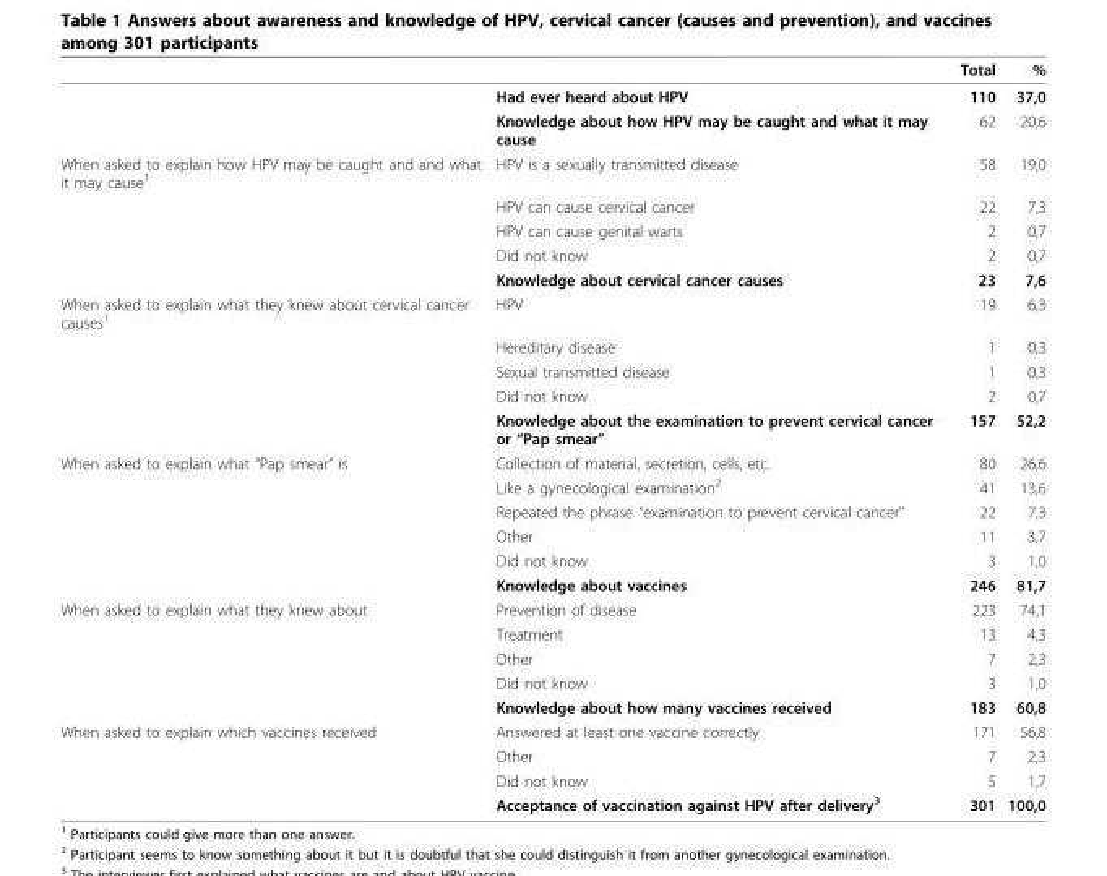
<table><thead><tr><td></td><td></td><td>Total</td><td>%</td></tr></thead><tbody><tr><td></td><td>Had ever heard about HPV</td><td>110</td><td>37,0</td></tr><tr><td></td><td>Knowledge about how HPV may be caught and what it may cause</td><td>62</td><td>20,6</td></tr><tr><td rowspan="5">When asked to explain how HPV may be caught and and what it may cause<sup>1</sup></td><td>HPV is a sexually transmitted disease</td><td>58</td><td>19,0</td></tr><tr><td>HPV can cause cervical cancer</td><td>22</td><td>7,3</td></tr><tr><td>HPV can cause genital warts</td><td>2</td><td>0,7</td></tr><tr><td>Did not know</td><td>2</td><td>0,7</td></tr><tr><td>Knowledge about cervical cancer causes</td><td>23</td><td>7,6</td></tr><tr><td rowspan="5">When asked to explain what they knew about cervical cancer causes<sup>1</sup></td><td>HPV</td><td>19</td><td>6,3</td></tr><tr><td>Hereditary disease</td><td>1</td><td>0,3</td></tr><tr><td>Sexual transmitted disease</td><td>1</td><td>0,3</td></tr><tr><td>Did not know</td><td>2</td><td>0,7</td></tr><tr><td>Knowledge about the examination to prevent cervical cancer or “Pap smear”</td><td>157</td><td>52,2</td></tr><tr><td rowspan="6">When asked to explain what “Pap smear” is</td><td>Collection of material, secretion, cells, etc.</td><td>80</td><td>26,6</td></tr><tr><td>Like a gynecological examination<sup>2</sup></td><td>41</td><td>13,6</td></tr><tr><td>Repeated the phrase “examination to prevent cervical cancer’’</td><td>22</td><td>7,3</td></tr><tr><td>Other</td><td>11</td><td>3,7</td></tr><tr><td>Did not know</td><td>3</td><td>1,0</td></tr><tr><td>Knowledge about vaccines</td><td>246</td><td>81,7</td></tr><tr><td rowspan="5">When asked to explain what they knew about</td><td>Prevention of disease</td><td>223</td><td>74,1</td></tr><tr><td>Treatment</td><td>13</td><td>4,3</td></tr><tr><td>Other</td><td>7</td><td>2,3</td></tr><tr><td>Did not know</td><td>3</td><td>1,0</td></tr><tr><td>Knowledge about how many vaccines received</td><td>183</td><td>60,8</td></tr><tr><td rowspan="4">When asked to explain which vaccines received</td><td>Answered at least one vaccine correctly</td><td>171</td><td>56,8</td></tr><tr><td>Other</td><td>7</td><td>2,3</td></tr><tr><td>Did not know</td><td>5</td><td>1,7</td></tr><tr><td>Acceptance of vaccination against HPV after delivery<sup>3</sup></td><td>301</td><td>100,0</td></tr></tbody></table>